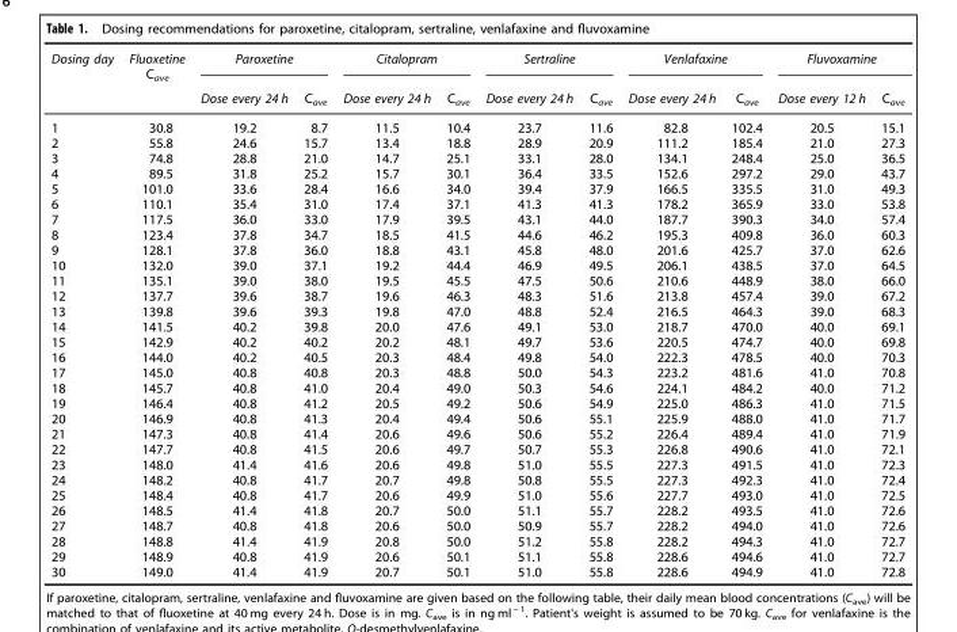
<table><thead><tr><td rowspan="2">Dosing day</td><td rowspan="2">Fluoxetine C<sub>ave</sub></td><td colspan="2">Paroxetine</td><td colspan="2">Citalopram</td><td colspan="2">Sertraline</td><td colspan="2">Venlafaxine</td><td colspan="2">Fluvoxamine</td></tr><tr><td>Dose every 24 h</td><td>C<sub>ave</sub></td><td>Dose every 24 h</td><td>C<sub>ave</sub></td><td>Dose every 24 h</td><td>C<sub>ave</sub></td><td>Dose every 24 h</td><td>C<sub>ave</sub></td><td>Dose every 12 h</td><td>C<sub>ave</sub></td></tr></thead><tbody><tr><td>1</td><td>30.8</td><td>19.2</td><td>8.7</td><td>11.5</td><td>10.4</td><td>23.7</td><td>11.6</td><td>82.8</td><td>102.4</td><td>20.5</td><td>15.1</td></tr><tr><td>2</td><td>55.8</td><td>24.6</td><td>15.7</td><td>13.4</td><td>18.8</td><td>28.9</td><td>20.9</td><td>111.2</td><td>185.4</td><td>21.0</td><td>27.3</td></tr><tr><td>3</td><td>74.8</td><td>28.8</td><td>21.0</td><td>14.7</td><td>25.1</td><td>33.1</td><td>28.0</td><td>134.1</td><td>248.4</td><td>25.0</td><td>36.5</td></tr><tr><td>4</td><td>89.5</td><td>31.8</td><td>25.2</td><td>15.7</td><td>30.1</td><td>36.4</td><td>33.5</td><td>152.6</td><td>297.2</td><td>29.0</td><td>43.7</td></tr><tr><td>5</td><td>101.0</td><td>33.6</td><td>28.4</td><td>16.6</td><td>34.0</td><td>39.4</td><td>37.9</td><td>166.5</td><td>335.5</td><td>31.0</td><td>49.3</td></tr><tr><td>6</td><td>110.1</td><td>35.4</td><td>31.0</td><td>17.4</td><td>37.1</td><td>41.3</td><td>41.3</td><td>178.2</td><td>365.9</td><td>33.0</td><td>53.8</td></tr><tr><td>7</td><td>117.5</td><td>36.0</td><td>33.0</td><td>17.9</td><td>39.5</td><td>43.1</td><td>44.0</td><td>187.7</td><td>390.3</td><td>34.0</td><td>57.4</td></tr><tr><td>8</td><td>123.4</td><td>37.8</td><td>34.7</td><td>18.5</td><td>41.5</td><td>44.6</td><td>46.2</td><td>195.3</td><td>409.8</td><td>36.0</td><td>60.3</td></tr><tr><td>9</td><td>128.1</td><td>37.8</td><td>36.0</td><td>18.8</td><td>43.1</td><td>45.8</td><td>48.0</td><td>201.6</td><td>425.7</td><td>37.0</td><td>62.6</td></tr><tr><td>10</td><td>132.0</td><td>39.0</td><td>37.1</td><td>19.2</td><td>44.4</td><td>46.9</td><td>49.5</td><td>206.1</td><td>438.5</td><td>37.0</td><td>64.5</td></tr><tr><td>11</td><td>135.1</td><td>39.0</td><td>38.0</td><td>19.5</td><td>45.5</td><td>47.5</td><td>50.6</td><td>210.6</td><td>448.9</td><td>38.0</td><td>66.0</td></tr><tr><td>12</td><td>137.7</td><td>39.6</td><td>38.7</td><td>19.6</td><td>46.3</td><td>48.3</td><td>51.6</td><td>213.8</td><td>457.4</td><td>39.0</td><td>67.2</td></tr><tr><td>13</td><td>139.8</td><td>39.6</td><td>39.3</td><td>19.8</td><td>47.0</td><td>48.8</td><td>52.4</td><td>216.5</td><td>464.3</td><td>39.0</td><td>68.3</td></tr><tr><td>14</td><td>141.5</td><td>40.2</td><td>39.8</td><td>20.0</td><td>47.6</td><td>49.1</td><td>53.0</td><td>218.7</td><td>470.0</td><td>40.0</td><td>69.1</td></tr><tr><td>15</td><td>142.9</td><td>40.2</td><td>40.2</td><td>20.2</td><td>48.1</td><td>49.7</td><td>53.6</td><td>220.5</td><td>474.7</td><td>40.0</td><td>69.8</td></tr><tr><td>16</td><td>144.0</td><td>40.2</td><td>40.5</td><td>20.3</td><td>48.4</td><td>49.8</td><td>54.0</td><td>222.3</td><td>478.5</td><td>40.0</td><td>70.3</td></tr><tr><td>17</td><td>145.0</td><td>40.8</td><td>40.8</td><td>20.3</td><td>48.8</td><td>50.0</td><td>54.3</td><td>223.2</td><td>481.6</td><td>41.0</td><td>70.8</td></tr><tr><td>18</td><td>145.7</td><td>40.8</td><td>41.0</td><td>20.4</td><td>49.0</td><td>50.3</td><td>54.6</td><td>224.1</td><td>484.2</td><td>40.0</td><td>71.2</td></tr><tr><td>19</td><td>146.4</td><td>40.8</td><td>41.2</td><td>20.5</td><td>49.2</td><td>50.6</td><td>54.9</td><td>225.0</td><td>486.3</td><td>41.0</td><td>71.5</td></tr><tr><td>20</td><td>146.9</td><td>40.8</td><td>41.3</td><td>20.4</td><td>49.4</td><td>50.6</td><td>55.1</td><td>225.9</td><td>488.0</td><td>41.0</td><td>71.7</td></tr><tr><td>21</td><td>147.3</td><td>40.8</td><td>41.4</td><td>20.6</td><td>49.6</td><td>50.6</td><td>55.2</td><td>226.4</td><td>489.4</td><td>41.0</td><td>71.9</td></tr><tr><td>22</td><td>147.7</td><td>40.8</td><td>41.5</td><td>20.6</td><td>49.7</td><td>50.7</td><td>55.3</td><td>226.8</td><td>490.6</td><td>41.0</td><td>72.1</td></tr><tr><td>23</td><td>148.0</td><td>41.4</td><td>41.6</td><td>20.6</td><td>49.8</td><td>51.0</td><td>55.5</td><td>227.3</td><td>491.5</td><td>41.0</td><td>72.3</td></tr><tr><td>24</td><td>148.2</td><td>40.8</td><td>41.7</td><td>20.7</td><td>49.8</td><td>50.8</td><td>55.5</td><td>227.3</td><td>492.3</td><td>41.0</td><td>72.4</td></tr><tr><td>25</td><td>148.4</td><td>40.8</td><td>41.7</td><td>20.6</td><td>49.9</td><td>51.0</td><td>55.6</td><td>227.7</td><td>493.0</td><td>41.0</td><td>72.5</td></tr><tr><td>26</td><td>148.5</td><td>41.4</td><td>41.8</td><td>20.7</td><td>50.0</td><td>51.1</td><td>55.7</td><td>228.2</td><td>493.5</td><td>41.0</td><td>72.6</td></tr><tr><td>27</td><td>148.7</td><td>40.8</td><td>41.8</td><td>20.6</td><td>50.0</td><td>50.9</td><td>55.7</td><td>228.2</td><td>494.0</td><td>41.0</td><td>72.6</td></tr><tr><td>28</td><td>148.8</td><td>41.4</td><td>41.9</td><td>20.8</td><td>50.0</td><td>51.2</td><td>55.8</td><td>228.2</td><td>494.3</td><td>41.0</td><td>72.7</td></tr><tr><td>29</td><td>148.9</td><td>40.8</td><td>41.9</td><td>20.6</td><td>50.1</td><td>51.1</td><td>55.8</td><td>228.6</td><td>494.6</td><td>41.0</td><td>72.7</td></tr><tr><td>30</td><td>149.0</td><td>41.4</td><td>41.9</td><td>20.7</td><td>50.1</td><td>51.0</td><td>55.8</td><td>228.6</td><td>494.9</td><td>41.0</td><td>72.8</td></tr></tbody></table>